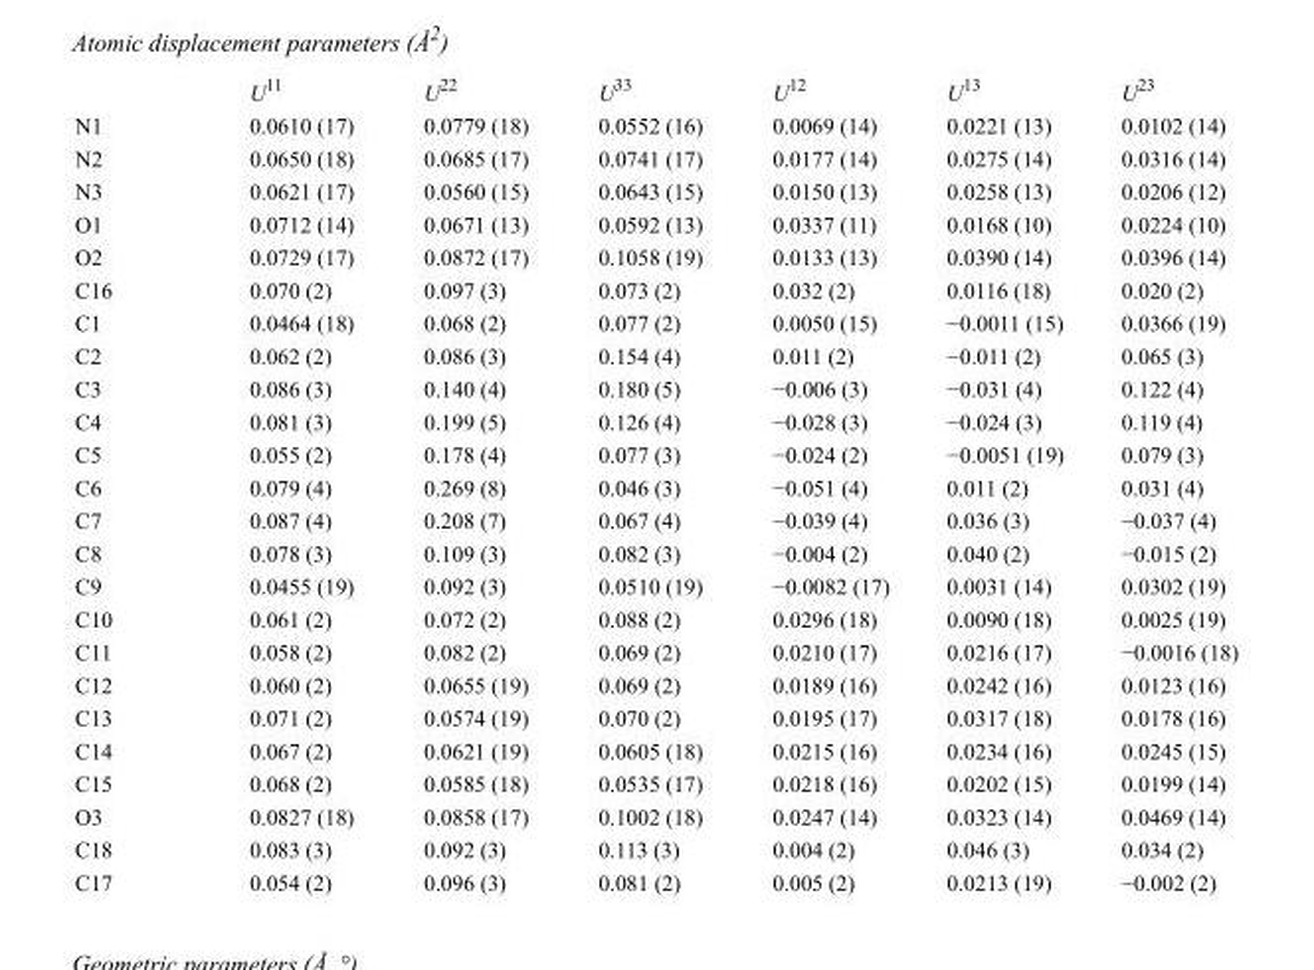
<table><thead><tr><td></td><td>U<sup>11</sup></td><td>U<sup>22</sup></td><td>U<sup>33</sup></td><td>U<sup>12</sup></td><td>U<sup>13</sup></td><td>U<sup>23</sup></td></tr></thead><tbody><tr><td>N1</td><td>0.0610 (17)</td><td>0.0779 (18)</td><td>0.0552 (16)</td><td>0.0069 (14)</td><td>0.0221 (13)</td><td>0.0102 (14)</td></tr><tr><td>N2</td><td>0.0650 (18)</td><td>0.0685 (17)</td><td>0.0741 (17)</td><td>0.0177 (14)</td><td>0.0275 (14)</td><td>0.0316 (14)</td></tr><tr><td>N3</td><td>0.0621 (17)</td><td>0.0560 (15)</td><td>0.0643 (15)</td><td>0.0150 (13)</td><td>0.0258 (13)</td><td>0.0206 (12)</td></tr><tr><td>O1</td><td>0.0712 (14)</td><td>0.0671 (13)</td><td>0.0592 (13)</td><td>0.0337 (11)</td><td>0.0168 (10)</td><td>0.0224 (10)</td></tr><tr><td>O2</td><td>0.0729 (17)</td><td>0.0872 (17)</td><td>0.1058 (19)</td><td>0.0133 (13)</td><td>0.0390 (14)</td><td>0.0396 (14)</td></tr><tr><td>C16</td><td>0.070 (2)</td><td>0.097 (3)</td><td>0.073 (2)</td><td>0.032 (2)</td><td>0.0116 (18)</td><td>0.020 (2)</td></tr><tr><td>C1</td><td>0.0464 (18)</td><td>0.068 (2)</td><td>0.077 (2)</td><td>0.0050 (15)</td><td>−0.0011 (15)</td><td>0.0366 (19)</td></tr><tr><td>C2</td><td>0.062 (2)</td><td>0.086 (3)</td><td>0.154 (4)</td><td>0.011 (2)</td><td>−0.011 (2)</td><td>0.065 (3)</td></tr><tr><td>C3</td><td>0.086 (3)</td><td>0.140 (4)</td><td>0.180 (5)</td><td>−0.006 (3)</td><td>−0.031 (4)</td><td>0.122 (4)</td></tr><tr><td>C4</td><td>0.081 (3)</td><td>0.199 (5)</td><td>0.126 (4)</td><td>−0.028 (3)</td><td>−0.024 (3)</td><td>0.119 (4)</td></tr><tr><td>C5</td><td>0.055 (2)</td><td>0.178 (4)</td><td>0.077 (3)</td><td>−0.024 (2)</td><td>−0.0051 (19)</td><td>0.079 (3)</td></tr><tr><td>C6</td><td>0.079 (4)</td><td>0.269 (8)</td><td>0.046 (3)</td><td>−0.051 (4)</td><td>0.011 (2)</td><td>0.031 (4)</td></tr><tr><td>C7</td><td>0.087 (4)</td><td>0.208 (7)</td><td>0.067 (4)</td><td>−0.039 (4)</td><td>0.036 (3)</td><td>−0.037 (4)</td></tr><tr><td>C8</td><td>0.078 (3)</td><td>0.109 (3)</td><td>0.082 (3)</td><td>−0.004 (2)</td><td>0.040 (2)</td><td>−0.015 (2)</td></tr><tr><td>C9</td><td>0.0455 (19)</td><td>0.092 (3)</td><td>0.0510 (19)</td><td>−0.0082 (17)</td><td>0.0031 (14)</td><td>0.0302 (19)</td></tr><tr><td>C10</td><td>0.061 (2)</td><td>0.072 (2)</td><td>0.088 (2)</td><td>0.0296 (18)</td><td>0.0090 (18)</td><td>0.0025 (19)</td></tr><tr><td>C11</td><td>0.058 (2)</td><td>0.082 (2)</td><td>0.069 (2)</td><td>0.0210 (17)</td><td>0.0216 (17)</td><td>−0.0016 (18)</td></tr><tr><td>C12</td><td>0.060 (2)</td><td>0.0655 (19)</td><td>0.069 (2)</td><td>0.0189 (16)</td><td>0.0242 (16)</td><td>0.0123 (16)</td></tr><tr><td>C13</td><td>0.071 (2)</td><td>0.0574 (19)</td><td>0.070 (2)</td><td>0.0195 (17)</td><td>0.0317 (18)</td><td>0.0178 (16)</td></tr><tr><td>C14</td><td>0.067 (2)</td><td>0.0621 (19)</td><td>0.0605 (18)</td><td>0.0215 (16)</td><td>0.0234 (16)</td><td>0.0245 (15)</td></tr><tr><td>C15</td><td>0.068 (2)</td><td>0.0585 (18)</td><td>0.0535 (17)</td><td>0.0218 (16)</td><td>0.0202 (15)</td><td>0.0199 (14)</td></tr><tr><td>O3</td><td>0.0827 (18)</td><td>0.0858 (17)</td><td>0.1002 (18)</td><td>0.0247 (14)</td><td>0.0323 (14)</td><td>0.0469 (14)</td></tr><tr><td>C18</td><td>0.083 (3)</td><td>0.092 (3)</td><td>0.113 (3)</td><td>0.004 (2)</td><td>0.046 (3)</td><td>0.034 (2)</td></tr><tr><td>C17</td><td>0.054 (2)</td><td>0.096 (3)</td><td>0.081 (2)</td><td>0.005 (2)</td><td>0.0213 (19)</td><td>−0.002 (2)</td></tr></tbody></table>